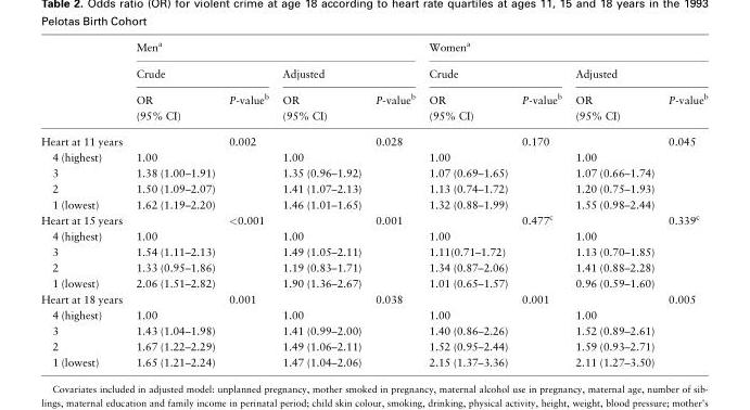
<table><thead><tr><td rowspan="3"></td><td colspan="4">Men<sup>a</sup></td><td colspan="4">Women<sup>a</sup></td></tr><tr><td colspan="2">Crude</td><td colspan="2">Adjusted</td><td colspan="2">Crude</td><td colspan="2">Adjusted</td></tr><tr><td>OR (95% CI)</td><td>P-value<sup>b</sup></td><td>OR (95% CI)</td><td>P-value<sup>b</sup></td><td>OR (95% CI)</td><td>P-value<sup>b</sup></td><td>OR (95% CI)</td><td>P-value<sup>b</sup></td></tr></thead><tbody><tr><td>Heart at 11 years</td><td></td><td>0.002</td><td></td><td>0.028</td><td></td><td>0.170</td><td></td><td>0.045</td></tr><tr><td>4 (highest)</td><td>1.00</td><td></td><td>1.00</td><td></td><td>1.00</td><td></td><td>1.00</td><td></td></tr><tr><td>3</td><td>1.38 (1.00–1.91)</td><td></td><td>1.35 (0.96–1.92)</td><td></td><td>1.07 (0.69–1.65)</td><td></td><td>1.07 (0.66–1.74)</td><td></td></tr><tr><td>2</td><td>1.50 (1.09–2.07)</td><td></td><td>1.41 (1.07–2.13)</td><td></td><td>1.13 (0.74–1.72)</td><td></td><td>1.20 (0.75–1.93)</td><td></td></tr><tr><td>1 (lowest)</td><td>1.62 (1.19–2.20)</td><td></td><td>1.46 (1.01–1.65)</td><td></td><td>1.32 (0.88–1.99)</td><td></td><td>1.55 (0.98–2.44)</td><td></td></tr><tr><td>Heart at 15 years</td><td></td><td>&lt;0.001</td><td></td><td>0.001</td><td></td><td>0.477<sup>c</sup></td><td></td><td>0.339<sup>c</sup></td></tr><tr><td>4 (highest)</td><td>1.00</td><td></td><td>1.00</td><td></td><td>1.00</td><td></td><td>1.00</td><td></td></tr><tr><td>3</td><td>1.54 (1.11–2.13)</td><td></td><td>1.49 (1.05–2.11)</td><td></td><td>1.11(0.71–1.72)</td><td></td><td>1.13 (0.70–1.85)</td><td></td></tr><tr><td>2</td><td>1.33 (0.95–1.86)</td><td></td><td>1.19 (0.83–1.71)</td><td></td><td>1.34 (0.87–2.06)</td><td></td><td>1.41 (0.88–2.28)</td><td></td></tr><tr><td>1 (lowest)</td><td>2.06 (1.51–2.82)</td><td></td><td>1.90 (1.36–2.67)</td><td></td><td>1.01 (0.65–1.57)</td><td></td><td>0.96 (0.59–1.60)</td><td></td></tr><tr><td>Heart at 18 years</td><td></td><td>0.001</td><td></td><td>0.038</td><td></td><td>0.001</td><td></td><td>0.005</td></tr><tr><td>4 (highest)</td><td>1.00</td><td></td><td>1.00</td><td></td><td>1.00</td><td></td><td>1.00</td><td></td></tr><tr><td>3</td><td>1.43 (1.04–1.98)</td><td></td><td>1.41 (0.99–2.00)</td><td></td><td>1.40 (0.86–2.26)</td><td></td><td>1.52 (0.89–2.61)</td><td></td></tr><tr><td>2</td><td>1.67 (1.22–2.29)</td><td></td><td>1.49 (1.06–2.11)</td><td></td><td>1.52 (0.95–2.44)</td><td></td><td>1.59 (0.93–2.71)</td><td></td></tr><tr><td>1 (lowest)</td><td>1.65 (1.21–2.24)</td><td></td><td>1.47 (1.04–2.06)</td><td></td><td>2.15 (1.37–3.36)</td><td></td><td>2.11 (1.27–3.50)</td><td></td></tr></tbody></table>